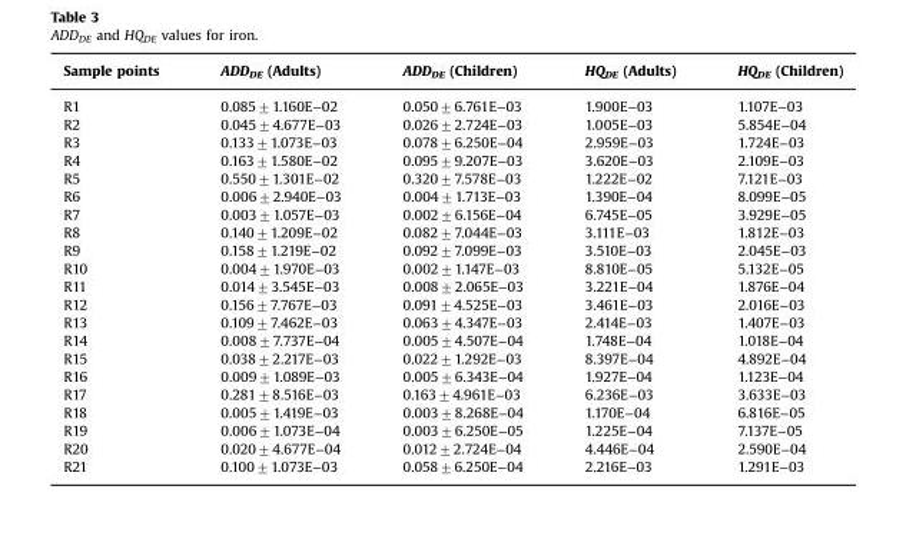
<table><thead><tr><td>Sample points</td><td>ADD<sub>DE</sub> (Adults)</td><td>ADD<sub>DE</sub> (Children)</td><td>HQ<sub>DE</sub> (Adults)</td><td>HQ<sub>DE</sub> (Children)</td></tr></thead><tbody><tr><td>R1</td><td>0.085±1.160E−02</td><td>0.050±6.761E−03</td><td>1.900E−03</td><td>1.107E−03</td></tr><tr><td>R2</td><td>0.045±4.677E−03</td><td>0.026±2.724E−03</td><td>1.005E−03</td><td>5.854E−04</td></tr><tr><td>R3</td><td>0.133±1.073E−03</td><td>0.078±6.250E−04</td><td>2.959E−03</td><td>1.724E−03</td></tr><tr><td>R4</td><td>0.163±1.580E−02</td><td>0.095±9.207E−03</td><td>3.620E−03</td><td>2.109E−03</td></tr><tr><td>R5</td><td>0.550±1.301E−02</td><td>0.320±7.578E−03</td><td>1.222E−02</td><td>7.121E−03</td></tr><tr><td>R6</td><td>0.006±2.940E−03</td><td>0.004±1.713E−03</td><td>1.390E−04</td><td>8.099E−05</td></tr><tr><td>R7</td><td>0.003±1.057E−03</td><td>0.002±6.156E−04</td><td>6.745E−05</td><td>3.929E−05</td></tr><tr><td>R8</td><td>0.140±1.209E−02</td><td>0.082±7.044E−03</td><td>3.111E−03</td><td>1.812E−03</td></tr><tr><td>R9</td><td>0.158±1.219E−02</td><td>0.092±7.099E−03</td><td>3.510E−03</td><td>2.045E−03</td></tr><tr><td>R10</td><td>0.004±1.970E−03</td><td>0.002±1.147E−03</td><td>8.810E−05</td><td>5.132E−05</td></tr><tr><td>R11</td><td>0.014±3.545E−03</td><td>0.008±2.065E−03</td><td>3.221E−04</td><td>1.876E−04</td></tr><tr><td>R12</td><td>0.156±7.767E−03</td><td>0.091±4.525E−03</td><td>3.461E−03</td><td>2.016E−03</td></tr><tr><td>R13</td><td>0.109±7.462E−03</td><td>0.063±4.347E−03</td><td>2.414E−03</td><td>1.407E−03</td></tr><tr><td>R14</td><td>0.008±7.737E−04</td><td>0.005±4.507E−04</td><td>1.748E−04</td><td>1.018E−04</td></tr><tr><td>R15</td><td>0.038±2.217E−03</td><td>0.022±1.292E−03</td><td>8.397E−04</td><td>4.892E−04</td></tr><tr><td>R16</td><td>0.009±1.089E−03</td><td>0.005±6.343E−04</td><td>1.927E−04</td><td>1.123E−04</td></tr><tr><td>R17</td><td>0.281±8.516E−03</td><td>0.163±4.961E−03</td><td>6.236E−03</td><td>3.633E−03</td></tr><tr><td>R18</td><td>0.005±1.419E−03</td><td>0.003±8.268E−04</td><td>1.170E−04</td><td>6.816E−05</td></tr><tr><td>R19</td><td>0.006±1.073E−04</td><td>0.003±6.250E−05</td><td>1.225E−04</td><td>7.137E−05</td></tr><tr><td>R20</td><td>0.020±4.677E−04</td><td>0.012±2.724E−04</td><td>4.446E−04</td><td>2.590E−04</td></tr><tr><td>R21</td><td>0.100±1.073E−03</td><td>0.058±6.250E−04</td><td>2.216E−03</td><td>1.291E−03</td></tr></tbody></table>